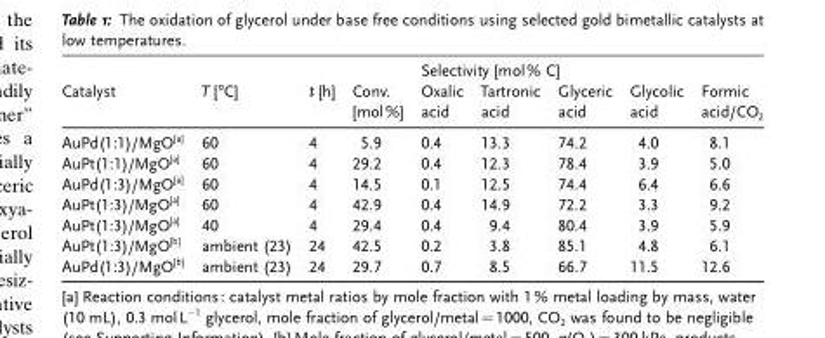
<table><thead><tr><td rowspan="2">Catalyst</td><td rowspan="2">T [°C]</td><td rowspan="2">t [h]</td><td rowspan="2">Conv. [mol%]</td><td colspan="5">Selectivity [mol% C]</td></tr><tr><td>Oxalic acid</td><td>Tartronic acid</td><td>Glyceric acid</td><td>Glycolic acid</td><td>Formic acid/CO<sub>2</sub></td></tr></thead><tbody><tr><td>AuPd(1:1)/MgO<sup>[a]</sup></td><td>60</td><td>4</td><td>5.9</td><td>0.4</td><td>13.3</td><td>74.2</td><td>4.0</td><td>8.1</td></tr><tr><td>AuPt(1:1)/MgO<sup>[a]</sup></td><td>60</td><td>4</td><td>29.2</td><td>0.4</td><td>12.3</td><td>78.4</td><td>3.9</td><td>5.0</td></tr><tr><td>AuPd(1:3)/MgO<sup>[a]</sup></td><td>60</td><td>4</td><td>14.5</td><td>0.1</td><td>12.5</td><td>74.4</td><td>6.4</td><td>6.6</td></tr><tr><td>AuPt(1:3)/MgO<sup>[a]</sup></td><td>60</td><td>4</td><td>42.9</td><td>0.4</td><td>14.9</td><td>72.2</td><td>3.3</td><td>9.2</td></tr><tr><td>AuPt(1:3)/MgO<sup>[a]</sup></td><td>40</td><td>4</td><td>29.4</td><td>0.4</td><td>9.4</td><td>80.4</td><td>3.9</td><td>5.9</td></tr><tr><td>AuPt(1:3)/MgO<sup>[b]</sup></td><td>ambient (23)</td><td>24</td><td>42.5</td><td>0.2</td><td>3.8</td><td>85.1</td><td>4.8</td><td>6.1</td></tr><tr><td>AuPd(1:3)/MgO<sup>[b]</sup></td><td>ambient (23)</td><td>24</td><td>29.7</td><td>0.7</td><td>8.5</td><td>66.7</td><td>11.5</td><td>12.6</td></tr></tbody></table>